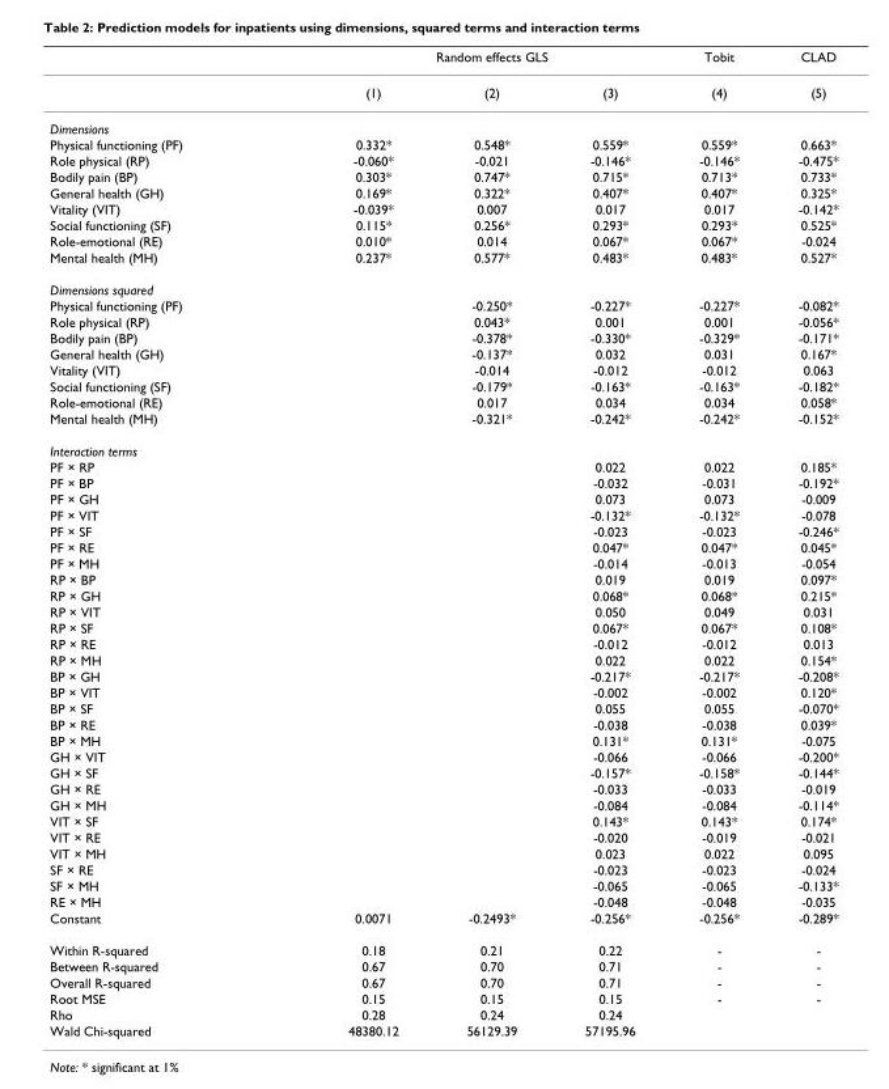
<table><thead><tr><td rowspan="2"></td><td colspan="3">Random effects GLS</td><td rowspan="2">Tobit (4)</td><td rowspan="2">CLAD (5)</td></tr><tr><td>(1)</td><td>(2)</td><td>(3)</td></tr></thead><tbody><tr><td colspan="6">Dimensions</td></tr><tr><td>Physical functioning (PF)</td><td>0.332*</td><td>0.548*</td><td>0.559*</td><td>0.559*</td><td>0.663*</td></tr><tr><td>Role physical (RP)</td><td>-0.060*</td><td>-0.021</td><td>-0.146*</td><td>-0.146*</td><td>-0.475*</td></tr><tr><td>Bodily pain (BP)</td><td>0.303*</td><td>0.747*</td><td>0.715*</td><td>0.713*</td><td>0.733*</td></tr><tr><td>General health (GH)</td><td>0.169*</td><td>0.322*</td><td>0.407*</td><td>0.407*</td><td>0.325*</td></tr><tr><td>Vitality (VIT)</td><td>-0.039*</td><td>0.007</td><td>0.017</td><td>0.017</td><td>-0.142*</td></tr><tr><td>Social functioning (SF)</td><td>0.115*</td><td>0.256*</td><td>0.293*</td><td>0.293*</td><td>0.525*</td></tr><tr><td>Role-emotional (RE)</td><td>0.010*</td><td>0.014</td><td>0.067*</td><td>0.067*</td><td>-0.024</td></tr><tr><td>Mental health (MH)</td><td>0.237*</td><td>0.577*</td><td>0.483*</td><td>0.483*</td><td>0.527*</td></tr><tr><td colspan="6">Dimensions squared</td></tr><tr><td>Physical functioning (PF)</td><td></td><td>-0.250*</td><td>-0.227*</td><td>-0.227*</td><td>-0.082*</td></tr><tr><td>Role physical (RP)</td><td></td><td>0.043*</td><td>0.001</td><td>0.001</td><td>-0.056*</td></tr><tr><td>Bodily pain (BP)</td><td></td><td>-0.378*</td><td>-0.330*</td><td>-0.329*</td><td>-0.171*</td></tr><tr><td>General health (GH)</td><td></td><td>-0.137*</td><td>0.032</td><td>0.031</td><td>0.167*</td></tr><tr><td>Vitality (VIT)</td><td></td><td>-0.014</td><td>-0.012</td><td>-0.012</td><td>0.063</td></tr><tr><td>Social functioning (SF)</td><td></td><td>-0.179*</td><td>-0.163*</td><td>-0.163*</td><td>-0.182*</td></tr><tr><td>Role-emotional (RE)</td><td></td><td>0.017</td><td>0.034</td><td>0.034</td><td>0.058*</td></tr><tr><td>Mental health (MH)</td><td></td><td>-0.321*</td><td>-0.242*</td><td>-0.242*</td><td>-0.152*</td></tr><tr><td colspan="6">Interaction terms</td></tr><tr><td>PF × RP</td><td></td><td></td><td>0.022</td><td>0.022</td><td>0.185*</td></tr><tr><td>PF × BP</td><td></td><td></td><td>-0.032</td><td>-0.031</td><td>-0.192*</td></tr><tr><td>PF × GH</td><td></td><td></td><td>0.073</td><td>0.073</td><td>-0.009</td></tr><tr><td>PF × VIT</td><td></td><td></td><td>-0.132*</td><td>-0.132*</td><td>-0.078</td></tr><tr><td>PF × SF</td><td></td><td></td><td>-0.023</td><td>-0.023</td><td>-0.246*</td></tr><tr><td>PF × RE</td><td></td><td></td><td>0.047*</td><td>0.047*</td><td>0.045*</td></tr><tr><td>PF × MH</td><td></td><td></td><td>-0.014</td><td>-0.013</td><td>-0.054</td></tr><tr><td>RP × BP</td><td></td><td></td><td>0.019</td><td>0.019</td><td>0.097*</td></tr><tr><td>RP × GH</td><td></td><td></td><td>0.068*</td><td>0.068*</td><td>0.215*</td></tr><tr><td>RP × VIT</td><td></td><td></td><td>0.050</td><td>0.049</td><td>0.031</td></tr><tr><td>RP × SF</td><td></td><td></td><td>0.067*</td><td>0.067*</td><td>0.108*</td></tr><tr><td>RP × RE</td><td></td><td></td><td>-0.012</td><td>-0.012</td><td>0.013</td></tr><tr><td>RP × MH</td><td></td><td></td><td>0.022</td><td>0.022</td><td>0.154*</td></tr><tr><td>BP × GH</td><td></td><td></td><td>-0.217*</td><td>-0.217*</td><td>-0.208*</td></tr><tr><td>BP × VIT</td><td></td><td></td><td>-0.002</td><td>-0.002</td><td>0.120*</td></tr><tr><td>BP × SF</td><td></td><td></td><td>0.055</td><td>0.055</td><td>-0.070*</td></tr><tr><td>BP × RE</td><td></td><td></td><td>-0.038</td><td>-0.038</td><td>0.039*</td></tr><tr><td>BP × MH</td><td></td><td></td><td>0.131*</td><td>0.131*</td><td>-0.075</td></tr><tr><td>GH × VIT</td><td></td><td></td><td>-0.066</td><td>-0.066</td><td>-0.200*</td></tr><tr><td>GH × SF</td><td></td><td></td><td>-0.157*</td><td>-0.158*</td><td>-0.144*</td></tr><tr><td>GH × RE</td><td></td><td></td><td>-0.033</td><td>-0.033</td><td>-0.019</td></tr><tr><td>GH × MH</td><td></td><td></td><td>-0.084</td><td>-0.084</td><td>-0.114*</td></tr><tr><td>VIT × SF</td><td></td><td></td><td>0.143*</td><td>0.143*</td><td>0.174*</td></tr><tr><td>VIT × RE</td><td></td><td></td><td>-0.020</td><td>-0.019</td><td>-0.021</td></tr><tr><td>VIT × MH</td><td></td><td></td><td>0.023</td><td>0.022</td><td>0.095</td></tr><tr><td>SF × RE</td><td></td><td></td><td>-0.023</td><td>-0.023</td><td>-0.024</td></tr><tr><td>SF × MH</td><td></td><td></td><td>-0.065</td><td>-0.065</td><td>-0.133*</td></tr><tr><td>RE × MH</td><td></td><td></td><td>-0.048</td><td>-0.048</td><td>-0.035</td></tr><tr><td>Constant</td><td>0.0071</td><td>-0.2493*</td><td>-0.256*</td><td>-0.256*</td><td>-0.289*</td></tr><tr><td>Within R-squared</td><td>0.18</td><td>0.21</td><td>0.22</td><td>-</td><td>-</td></tr><tr><td>Between R-squared</td><td>0.67</td><td>0.70</td><td>0.71</td><td>-</td><td>-</td></tr><tr><td>Overall R-squared</td><td>0.67</td><td>0.70</td><td>0.71</td><td>-</td><td>-</td></tr><tr><td>Root MSE</td><td>0.15</td><td>0.15</td><td>0.15</td><td>-</td><td>-</td></tr><tr><td>Rho</td><td>0.28</td><td>0.24</td><td>0.24</td><td></td><td></td></tr><tr><td>Wald Chi-squared</td><td>48380.12</td><td>56129.39</td><td>57195.96</td><td></td><td></td></tr></tbody></table>